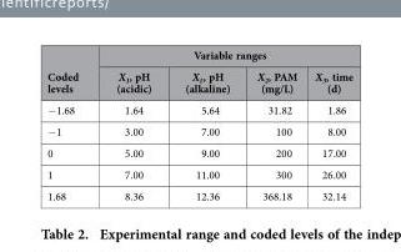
<table><thead><tr><td rowspan="2">Coded levels</td><td colspan="4">Variable ranges</td></tr><tr><td>X<sub>1</sub>, pH (acidic)</td><td>X<sub>1</sub>, pH (alkaline)</td><td>X<sub>2</sub>, PAM (mg/L)</td><td>X<sub>3</sub>, time (d)</td></tr></thead><tbody><tr><td>−1.68</td><td>1.64</td><td>5.64</td><td>31.82</td><td>1.86</td></tr><tr><td>−1</td><td>3.00</td><td>7.00</td><td>100</td><td>8.00</td></tr><tr><td>0</td><td>5.00</td><td>9.00</td><td>200</td><td>17.00</td></tr><tr><td>1</td><td>7.00</td><td>11.00</td><td>300</td><td>26.00</td></tr><tr><td>1.68</td><td>8.36</td><td>12.36</td><td>368.18</td><td>32.14</td></tr></tbody></table>